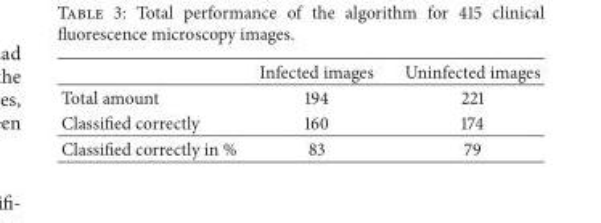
<table><thead><tr><td></td><td>Infected images</td><td>Uninfected images</td></tr></thead><tbody><tr><td>Total amount</td><td>194</td><td>221</td></tr><tr><td>Classified correctly</td><td>160</td><td>174</td></tr><tr><td>Classified correctly in %</td><td>83</td><td>79</td></tr></tbody></table>